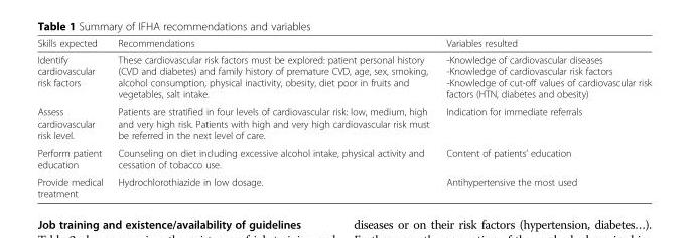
<table><thead><tr><td>Skills expected</td><td>Recommendations</td><td>Variables resulted</td></tr></thead><tbody><tr><td>Identify cardiovascular risk factors</td><td>These cardiovascular risk factors must be explored: patient personal history (CVD and diabetes) and family history of premature CVD, age, sex, smoking, alcohol consumption, physical inactivity, obesity, diet poor in fruits and vegetables, salt intake.</td><td>-Knowledge of cardiovascular diseases -Knowledge of cardiovascular risk factors -Knowledge of cut-off values of cardiovascular risk factors (HTN, diabetes and obesity)</td></tr><tr><td>Assess cardiovascular risk level.</td><td>Patients are stratified in four levels of cardiovascular risk: low, medium, high and very high risk. Patients with high and very high cardiovascular risk must be referred in the next level of care.</td><td>Indication for immediate referrals</td></tr><tr><td>Perform patient education</td><td>Counseling on diet including excessive alcohol intake, physical activity and cessation of tobacco use.</td><td>Content of patients’ education</td></tr><tr><td>Provide medical treatment</td><td>Hydrochlorothiazide in low dosage.</td><td>Antihypertensive the most used</td></tr></tbody></table>